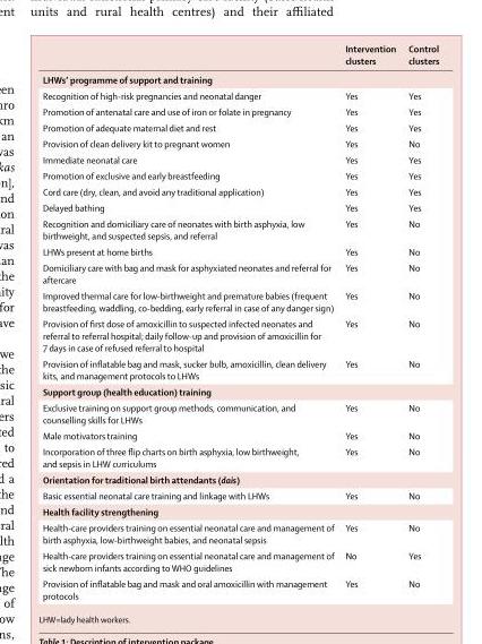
<table><thead><tr><td></td><td>Intervention clusters</td><td>Control clusters</td></tr></thead><tbody><tr><td colspan="3">LHWs’ programme of support and training</td></tr><tr><td>Recognition of high-risk pregnancies and neonatal danger</td><td>Yes</td><td>Yes</td></tr><tr><td>Promotion of antenatal care and use of iron or folate in pregnancy</td><td>Yes</td><td>Yes</td></tr><tr><td>Promotion of adequate maternal diet and rest</td><td>Yes</td><td>Yes</td></tr><tr><td>Provision of clean delivery kit to pregnant women</td><td>Yes</td><td>No</td></tr><tr><td>Immediate neonatal care</td><td>Yes</td><td>Yes</td></tr><tr><td>Promotion of exclusive and early breastfeeding</td><td>Yes</td><td>Yes</td></tr><tr><td>Cord care (dry, clean, and avoid any traditional application)</td><td>Yes</td><td>Yes</td></tr><tr><td>Delayed bathing</td><td>Yes</td><td>Yes</td></tr><tr><td>Recognition and domiciliary care of neonates with birth asphyxia, low birthweight, and suspected sepsis, and referral</td><td>Yes</td><td>No</td></tr><tr><td>LHWs present at home births</td><td>Yes</td><td>No</td></tr><tr><td>Domiciliary care with bag and mask for asphyxiated neonates and referral for aftercare</td><td>Yes</td><td>No</td></tr><tr><td>Improved thermal care for low-birthweight and premature babies (frequent breastfeeding, waddling, co-bedding, early referral in case of any danger sign)</td><td>Yes</td><td>No</td></tr><tr><td>Provision of first dose of amoxicillin to suspected infected neonates and referral to referral hospital; daily follow-up and provision of amoxicillin for 7 days in case of refused referral to hospital</td><td>Yes</td><td>No</td></tr><tr><td>Provision of inflatable bag and mask, sucker bulb, amoxicillin, clean delivery kits, and management protocols to LHWs</td><td>Yes</td><td>No</td></tr><tr><td colspan="3">Support group (health education) training</td></tr><tr><td>Exclusive training on support group methods, communication, and counselling skills for LHWs</td><td>Yes</td><td>No</td></tr><tr><td>Male motivators training</td><td>Yes</td><td>No</td></tr><tr><td>Incorporation of three flip charts on birth asphyxia, low birthweight, and sepsis in LHW curriculums</td><td>Yes</td><td>No</td></tr><tr><td colspan="3">Orientation for traditional birth attendants (dais)</td></tr><tr><td>Basic essential neonatal care training and linkage with LHWs</td><td>Yes</td><td>No</td></tr><tr><td colspan="3">Health facility strengthening</td></tr><tr><td>Health-care providers training on essential neonatal care and management of birth asphyxia, low-birthweight babies, and neonatal sepsis</td><td>Yes</td><td>No</td></tr><tr><td>Health-care providers training on essential neonatal care and management of sick newborn infants according to WHO guidelines</td><td>No</td><td>Yes</td></tr><tr><td>Provision of inflatable bag and mask and oral amoxicillin with management protocols</td><td>Yes</td><td>No</td></tr></tbody></table>